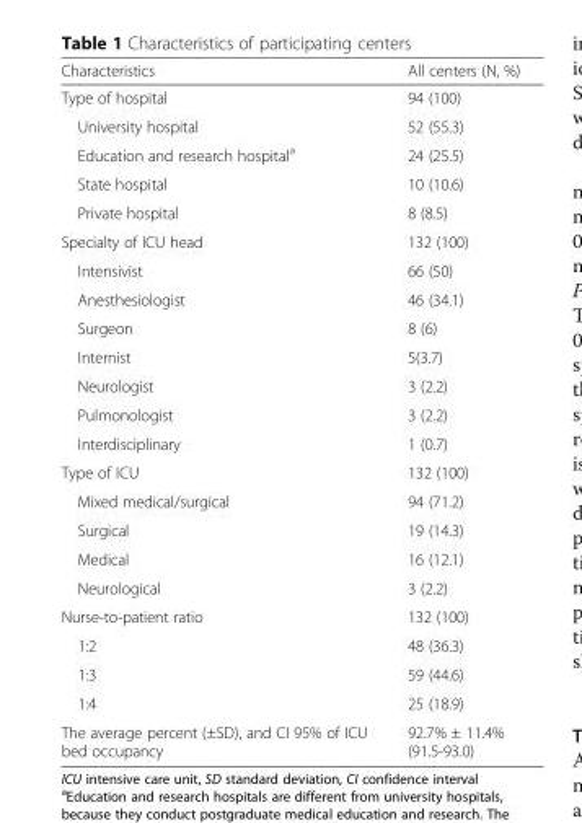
<table><thead><tr><td>Characteristics</td><td>All centers (N, %)</td></tr></thead><tbody><tr><td>Type of hospital</td><td>94 (100)</td></tr><tr><td>University hospital</td><td>52 (55.3)</td></tr><tr><td>Education and research hospital<sup>a</sup></td><td>24 (25.5)</td></tr><tr><td>State hospital</td><td>10 (10.6)</td></tr><tr><td>Private hospital</td><td>8 (8.5)</td></tr><tr><td>Specialty of ICU head</td><td>132 (100)</td></tr><tr><td>Intensivist</td><td>66 (50)</td></tr><tr><td>Anesthesiologist</td><td>46 (34.1)</td></tr><tr><td>Surgeon</td><td>8 (6)</td></tr><tr><td>Internist</td><td>5(3.7)</td></tr><tr><td>Neurologist</td><td>3 (2.2)</td></tr><tr><td>Pulmonologist</td><td>3 (2.2)</td></tr><tr><td>Interdisciplinary</td><td>1 (0.7)</td></tr><tr><td>Type of ICU</td><td>132 (100)</td></tr><tr><td>Mixed medical/surgical</td><td>94 (71.2)</td></tr><tr><td>Surgical</td><td>19 (14.3)</td></tr><tr><td>Medical</td><td>16 (12.1)</td></tr><tr><td>Neurological</td><td>3 (2.2)</td></tr><tr><td>Nurse-to-patient ratio</td><td>132 (100)</td></tr><tr><td>1:2</td><td>48 (36.3)</td></tr><tr><td>1:3</td><td>59 (44.6)</td></tr><tr><td>1:4</td><td>25 (18.9)</td></tr><tr><td>The average percent (±SD), and CI 95% of ICU bed occupancy</td><td>92.7% ± 11.4% (91.5-93.0)</td></tr></tbody></table>